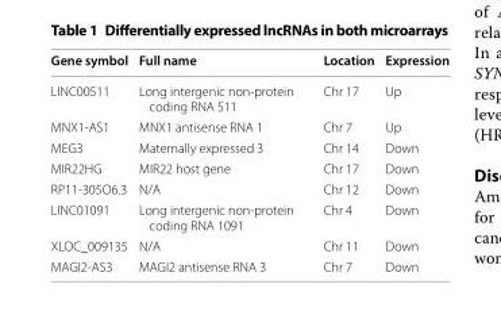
<table><thead><tr><td>Gene symbol</td><td>Full name</td><td>Location</td><td>Expression</td></tr></thead><tbody><tr><td>LINC00511</td><td>Long intergenic non-protein coding RNA 511</td><td>Chr 17</td><td>Up</td></tr><tr><td>MNX1-AS1</td><td>MNX1 antisense RNA 1</td><td>Chr 7</td><td>Up</td></tr><tr><td>MEG3</td><td>Maternally expressed 3</td><td>Chr 14</td><td>Down</td></tr><tr><td>MIR22HG</td><td>MIR22 host gene</td><td>Chr 17</td><td>Down</td></tr><tr><td>RP11-305O6.3</td><td>N/A</td><td>Chr 12</td><td>Down</td></tr><tr><td>LINC01091</td><td>Long intergenic non-protein coding RNA 1091</td><td>Chr 4</td><td>Down</td></tr><tr><td>XLOC_009135</td><td>N/A</td><td>Chr 11</td><td>Down</td></tr><tr><td>MAGI2-AS3</td><td>MAGI2 antisense RNA 3</td><td>Chr 7</td><td>Down</td></tr></tbody></table>